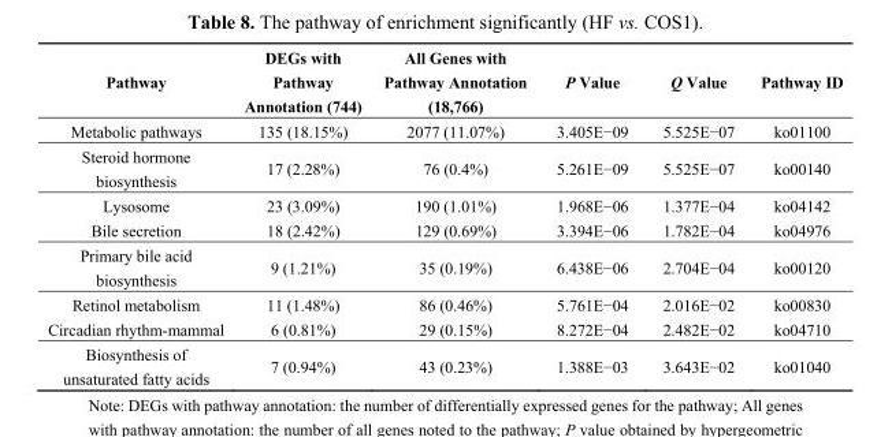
<table><thead><tr><td>Pathway</td><td>DEGs with Pathway Annotation (744)</td><td>All Genes with Pathway Annotation (18,766)</td><td>P Value</td><td>Q Value</td><td>Pathway ID</td></tr></thead><tbody><tr><td>Metabolic pathways</td><td>135 (18.15%)</td><td>2077 (11.07%)</td><td>3.405E−09</td><td>5.525E−07</td><td>ko01100</td></tr><tr><td>Steroid hormone biosynthesis</td><td>17 (2.28%)</td><td>76 (0.4%)</td><td>5.261E−09</td><td>5.525E−07</td><td>ko00140</td></tr><tr><td>Lysosome</td><td>23 (3.09%)</td><td>190 (1.01%)</td><td>1.968E−06</td><td>1.377E−04</td><td>ko04142</td></tr><tr><td>Bile secretion</td><td>18 (2.42%)</td><td>129 (0.69%)</td><td>3.394E−06</td><td>1.782E−04</td><td>ko04976</td></tr><tr><td>Primary bile acid biosynthesis</td><td>9 (1.21%)</td><td>35 (0.19%)</td><td>6.438E−06</td><td>2.704E−04</td><td>ko00120</td></tr><tr><td>Retinol metabolism</td><td>11 (1.48%)</td><td>86 (0.46%)</td><td>5.761E−04</td><td>2.016E−02</td><td>ko00830</td></tr><tr><td>Circadian rhythm-mammal</td><td>6 (0.81%)</td><td>29 (0.15%)</td><td>8.272E−04</td><td>2.482E−02</td><td>ko04710</td></tr><tr><td>Biosynthesis of unsaturated fatty acids</td><td>7 (0.94%)</td><td>43 (0.23%)</td><td>1.388E−03</td><td>3.643E−02</td><td>ko01040</td></tr></tbody></table>